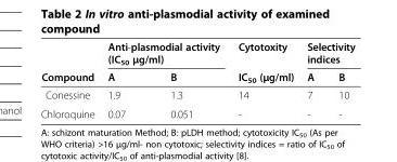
<table><thead><tr><td rowspan="2">Compound</td><td colspan="2">Anti-plasmodial activity (IC<sub>50</sub> μg/ml)</td><td rowspan="2">Cytotoxity IC<sub>50</sub> (μg/ml)</td><td colspan="2">Selectivity indices</td></tr><tr><td>A</td><td>B</td><td>A</td><td>B</td></tr></thead><tbody><tr><td>Conessine</td><td>1.9</td><td>1.3</td><td>14</td><td>7</td><td>10</td></tr><tr><td>Chloroquine</td><td>0.07</td><td>0.051</td><td>-</td><td>-</td><td>-</td></tr></tbody></table>